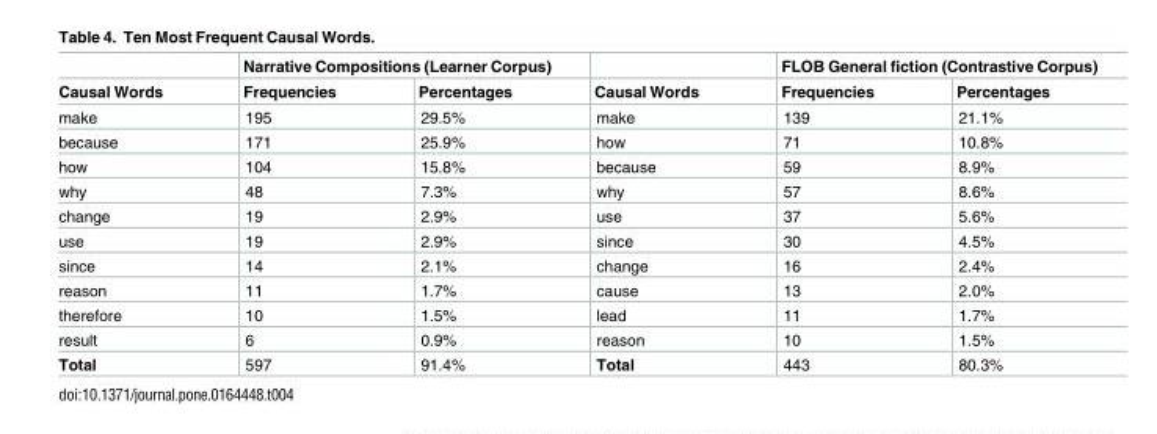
<table><thead><tr><td rowspan="2">Causal Words</td><td colspan="2">Narrative Compositions (Learner Corpus)</td><td rowspan="2">Causal Words</td><td colspan="2">FLOB General fiction (Contrastive Corpus)</td></tr><tr><td>Frequencies</td><td>Percentages</td><td>Frequencies</td><td>Percentages</td></tr></thead><tbody><tr><td>make</td><td>195</td><td>29.5%</td><td>make</td><td>139</td><td>21.1%</td></tr><tr><td>because</td><td>171</td><td>25.9%</td><td>how</td><td>71</td><td>10.8%</td></tr><tr><td>how</td><td>104</td><td>15.8%</td><td>because</td><td>59</td><td>8.9%</td></tr><tr><td>why</td><td>48</td><td>7.3%</td><td>why</td><td>57</td><td>8.6%</td></tr><tr><td>change</td><td>19</td><td>2.9%</td><td>use</td><td>37</td><td>5.6%</td></tr><tr><td>use</td><td>19</td><td>2.9%</td><td>since</td><td>30</td><td>4.5%</td></tr><tr><td>since</td><td>14</td><td>2.1%</td><td>change</td><td>16</td><td>2.4%</td></tr><tr><td>reason</td><td>11</td><td>1.7%</td><td>cause</td><td>13</td><td>2.0%</td></tr><tr><td>therefore</td><td>10</td><td>1.5%</td><td>lead</td><td>11</td><td>1.7%</td></tr><tr><td>result</td><td>6</td><td>0.9%</td><td>reason</td><td>10</td><td>1.5%</td></tr><tr><td>Total</td><td>597</td><td>91.4%</td><td>Total</td><td>443</td><td>80.3%</td></tr></tbody></table>